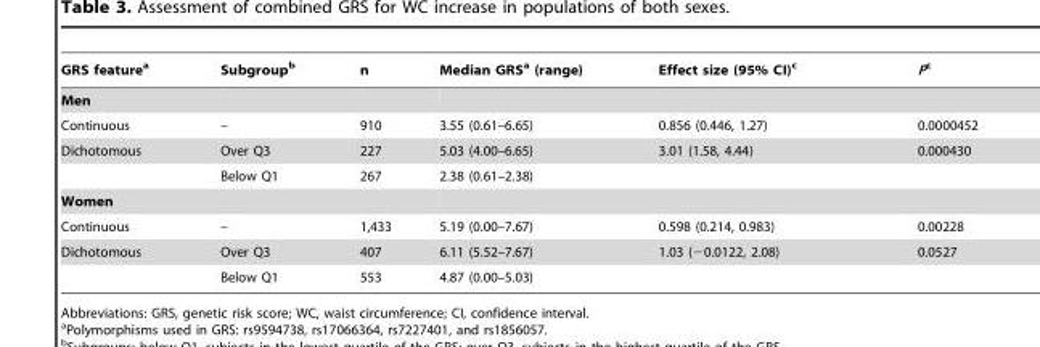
<table><thead><tr><td>GRS feature<sup>a</sup></td><td>Subgroup<sup>b</sup></td><td>n</td><td>Median GRS<sup>a</sup> (range)</td><td>Effect size (95% CI)<sup>c</sup></td><td>Pc</td></tr></thead><tbody><tr><td colspan="6">Men</td></tr><tr><td>Continuous</td><td>–</td><td>910</td><td>3.55 (0.61–6.65)</td><td>0.856 (0.446, 1.27)</td><td>0.0000452</td></tr><tr><td rowspan="2">Dichotomous</td><td>Over Q3</td><td>227</td><td>5.03 (4.00–6.65)</td><td>3.01 (1.58, 4.44)</td><td>0.000430</td></tr><tr><td>Below Q1</td><td>267</td><td>2.38 (0.61–2.38)</td><td></td><td></td></tr><tr><td colspan="6">Women</td></tr><tr><td>Continuous</td><td>–</td><td>1,433</td><td>5.19 (0.00–7.67)</td><td>0.598 (0.214, 0.983)</td><td>0.00228</td></tr><tr><td rowspan="2">Dichotomous</td><td>Over Q3</td><td>407</td><td>6.11 (5.52–7.67)</td><td>1.03 (−0.0122, 2.08)</td><td>0.0527</td></tr><tr><td>Below Q1</td><td>553</td><td>4.87 (0.00–5.03)</td><td></td><td></td></tr></tbody></table>